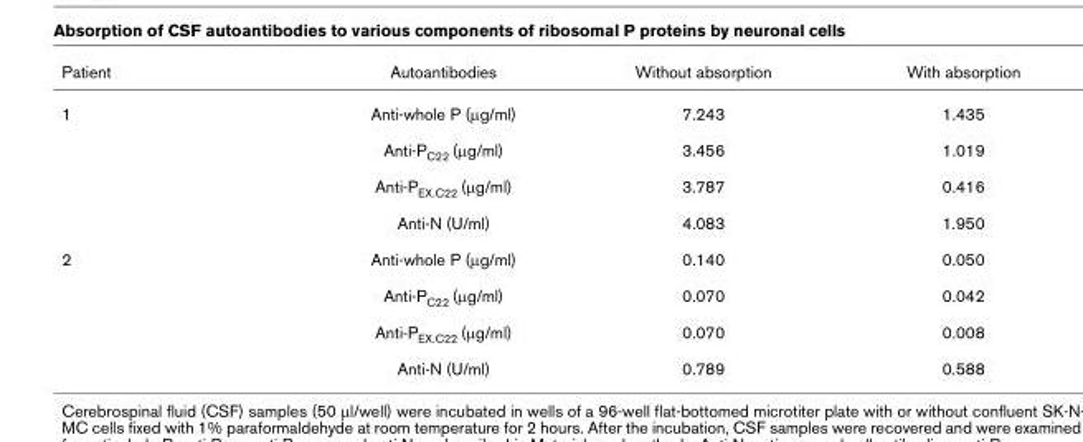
<table><thead><tr><td>Patient</td><td>Autoantibodies</td><td>Without absorption</td><td>With absorption</td></tr></thead><tbody><tr><td rowspan="4">1</td><td>Anti-whole P (μg/ml)</td><td>7.243</td><td>1.435</td></tr><tr><td>Anti-P<sub>C22</sub> (μg/ml)</td><td>3.456</td><td>1.019</td></tr><tr><td>Anti-P<sub>EX.C22</sub> (μg/ml)</td><td>3.787</td><td>0.416</td></tr><tr><td>Anti-N (U/ml)</td><td>4.083</td><td>1.950</td></tr><tr><td rowspan="4">2</td><td>Anti-whole P (μg/ml)</td><td>0.140</td><td>0.050</td></tr><tr><td>Anti-P<sub>C22</sub> (μg/ml)</td><td>0.070</td><td>0.042</td></tr><tr><td>Anti-P<sub>EX.C22</sub> (μg/ml)</td><td>0.070</td><td>0.008</td></tr><tr><td>Anti-N (U/ml)</td><td>0.789</td><td>0.588</td></tr></tbody></table>